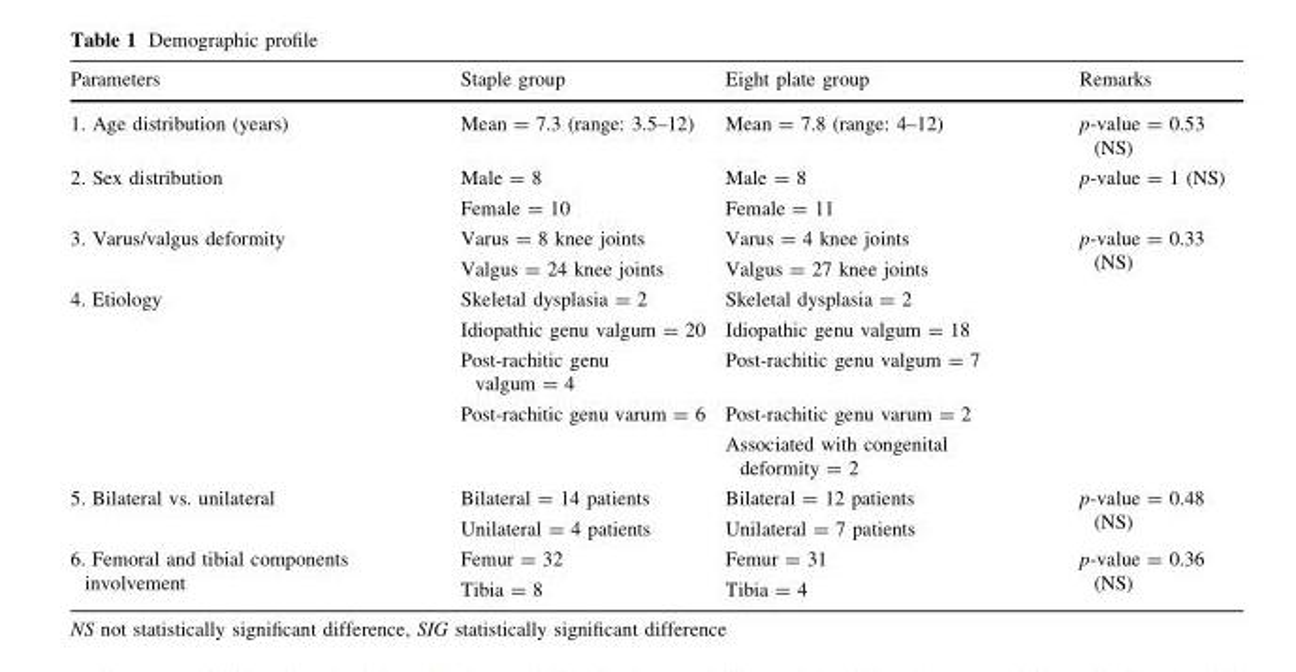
<table><thead><tr><td>Parameters</td><td>Staple group</td><td>Eight plate group</td><td>Remarks</td></tr></thead><tbody><tr><td>1. Age distribution (years)</td><td>Mean = 7.3 (range: 3.5–12)</td><td>Mean = 7.8 (range: 4–12)</td><td>p-value = 0.53 (NS)</td></tr><tr><td rowspan="2">2. Sex distribution</td><td>Male = 8</td><td>Male = 8</td><td rowspan="2">p-value = 1 (NS)</td></tr><tr><td>Female = 10</td><td>Female = 11</td></tr><tr><td rowspan="2">3. Varus/valgus deformity</td><td>Varus = 8 knee joints</td><td>Varus = 4 knee joints</td><td rowspan="2">p-value = 0.33 (NS)</td></tr><tr><td>Valgus = 24 knee joints</td><td>Valgus = 27 knee joints</td></tr><tr><td rowspan="5">4. Etiology</td><td>Skeletal dysplasia = 2</td><td>Skeletal dysplasia = 2</td><td rowspan="5"></td></tr><tr><td>Idiopathic genu valgum = 20</td><td>Idiopathic genu valgum = 18</td></tr><tr><td>Post-rachitic genu valgum = 4</td><td>Post-rachitic genu valgum = 7</td></tr><tr><td rowspan="2">Post-rachitic genu varum = 6</td><td>Post-rachitic genu varum = 2</td></tr><tr><td>Associated with congenital deformity = 2</td></tr><tr><td rowspan="2">5. Bilateral vs. unilateral</td><td>Bilateral = 14 patients</td><td>Bilateral = 12 patients</td><td rowspan="2">p-value = 0.48 (NS)</td></tr><tr><td>Unilateral = 4 patients</td><td>Unilateral = 7 patients</td></tr><tr><td rowspan="2">6. Femoral and tibial components involvement</td><td>Femur = 32</td><td>Femur = 31</td><td rowspan="2">p-value = 0.36 (NS)</td></tr><tr><td>Tibia = 8</td><td>Tibia = 4</td></tr></tbody></table>